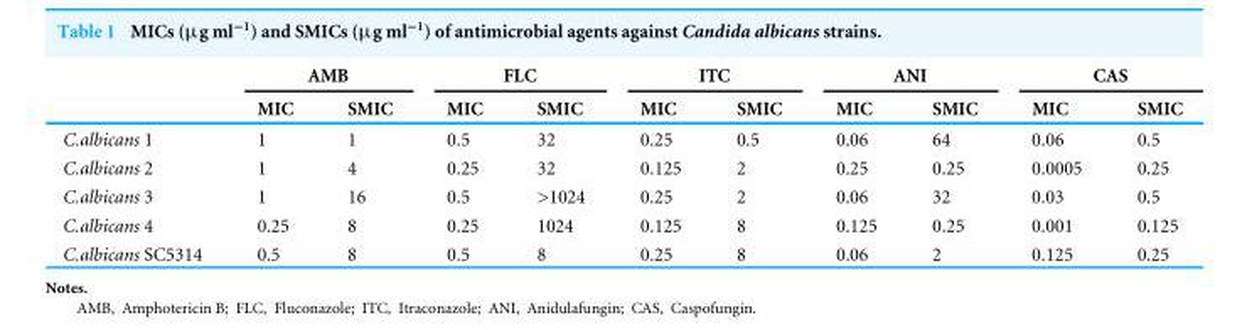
<table><thead><tr><td rowspan="2"></td><td colspan="2">AMB</td><td colspan="2">FLC</td><td colspan="2">ITC</td><td colspan="2">ANI</td><td colspan="2">CAS</td></tr><tr><td>MIC</td><td>SMIC</td><td>MIC</td><td>SMIC</td><td>MIC</td><td>SMIC</td><td>MIC</td><td>SMIC</td><td>MIC</td><td>SMIC</td></tr></thead><tbody><tr><td>C.albicans 1</td><td>1</td><td>1</td><td>0.5</td><td>32</td><td>0.25</td><td>0.5</td><td>0.06</td><td>64</td><td>0.06</td><td>0.5</td></tr><tr><td>C.albicans 2</td><td>1</td><td>4</td><td>0.25</td><td>32</td><td>0.125</td><td>2</td><td>0.25</td><td>0.25</td><td>0.0005</td><td>0.25</td></tr><tr><td>C.albicans 3</td><td>1</td><td>16</td><td>0.5</td><td>&gt;1024</td><td>0.25</td><td>2</td><td>0.06</td><td>32</td><td>0.03</td><td>0.5</td></tr><tr><td>C.albicans 4</td><td>0.25</td><td>8</td><td>0.25</td><td>1024</td><td>0.125</td><td>8</td><td>0.125</td><td>0.25</td><td>0.001</td><td>0.125</td></tr><tr><td>C.albicans SC5314</td><td>0.5</td><td>8</td><td>0.5</td><td>8</td><td>0.25</td><td>8</td><td>0.06</td><td>2</td><td>0.125</td><td>0.25</td></tr></tbody></table>